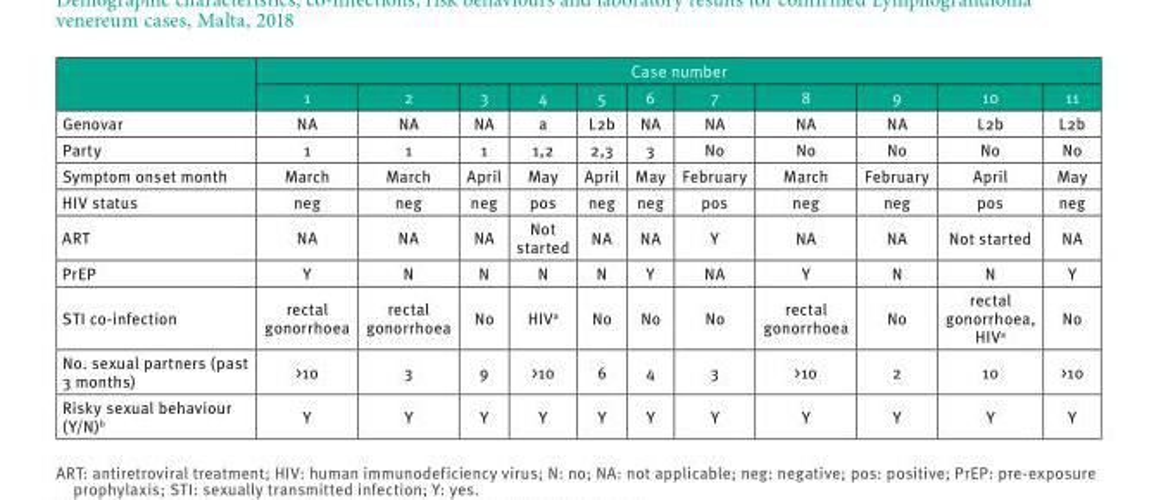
<table><thead><tr><td rowspan="2"></td><td colspan="11">Case number</td></tr><tr><td>1</td><td>2</td><td>3</td><td>4</td><td>5</td><td>6</td><td>7</td><td>8</td><td>9</td><td>10</td><td>11</td></tr></thead><tbody><tr><td>Genovar</td><td>NA</td><td>NA</td><td>NA</td><td>a</td><td>L2b</td><td>NA</td><td>NA</td><td>NA</td><td>NA</td><td>L2b</td><td>L2b</td></tr><tr><td>Party</td><td>1</td><td>1</td><td>1</td><td>1,2</td><td>2,3</td><td>3</td><td>No</td><td>No</td><td>No</td><td>No</td><td>No</td></tr><tr><td>Symptom onset month</td><td>March</td><td>March</td><td>April</td><td>May</td><td>April</td><td>May</td><td>February</td><td>March</td><td>February</td><td>April</td><td>May</td></tr><tr><td>HIV status</td><td>neg</td><td>neg</td><td>neg</td><td>pos</td><td>neg</td><td>neg</td><td>pos</td><td>neg</td><td>neg</td><td>pos</td><td>neg</td></tr><tr><td>ART</td><td>NA</td><td>NA</td><td>NA</td><td>Not started</td><td>NA</td><td>NA</td><td>Y</td><td>NA</td><td>NA</td><td>Not started</td><td>NA</td></tr><tr><td>PrEP</td><td>Y</td><td>N</td><td>N</td><td>N</td><td>N</td><td>Y</td><td>NA</td><td>Y</td><td>N</td><td>N</td><td>Y</td></tr><tr><td>STI co-infection</td><td>rectal gonorrhoea</td><td>rectal gonorrhoea</td><td>No</td><td>HIV<sup>a</sup></td><td>No</td><td>No</td><td>No</td><td>rectal gonorrhoea</td><td>No</td><td>rectal gonorrhoea, HIV<sup>a</sup></td><td>No</td></tr><tr><td>No. sexual partners (past 3 months)</td><td>&gt;10</td><td>3</td><td>9</td><td>&gt;10</td><td>6</td><td>4</td><td>3</td><td>&gt;10</td><td>2</td><td>10</td><td>&gt;10</td></tr><tr><td>Risky sexual behaviour (Y/N)<sup>b</sup></td><td>Y</td><td>Y</td><td>Y</td><td>Y</td><td>Y</td><td>Y</td><td>Y</td><td>Y</td><td>Y</td><td>Y</td><td>Y</td></tr></tbody></table>